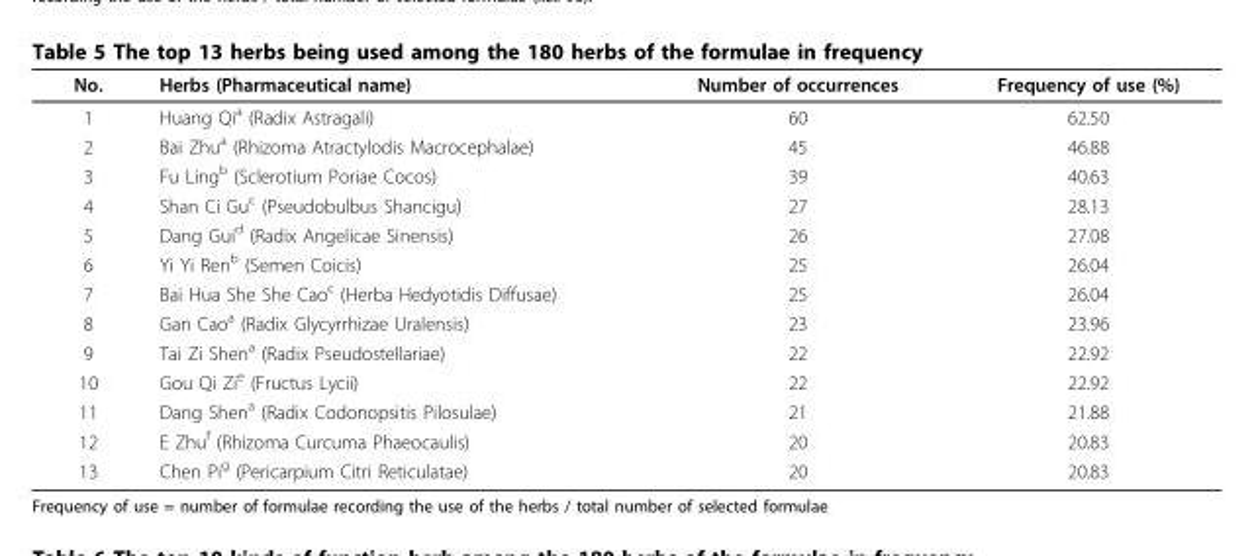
<table><thead><tr><td>No.</td><td>Herbs (Pharmaceutical name)</td><td>Number of occurrences</td><td>Frequency of use (%)</td></tr></thead><tbody><tr><td>1</td><td>Huang Qi<sup>a</sup> (Radix Astragali)</td><td>60</td><td>62.50</td></tr><tr><td>2</td><td>Bai Zhu<sup>a</sup> (Rhizoma Atractylodis Macrocephalae)</td><td>45</td><td>46.88</td></tr><tr><td>3</td><td>Fu Ling<sup>b</sup> (Sclerotium Poriae Cocos)</td><td>39</td><td>40.63</td></tr><tr><td>4</td><td>Shan Ci Gu<sup>c</sup> (Pseudobulbus Shancigu)</td><td>27</td><td>28.13</td></tr><tr><td>5</td><td>Dang Gui<sup>d</sup> (Radix Angelicae Sinensis)</td><td>26</td><td>27.08</td></tr><tr><td>6</td><td>Yi Yi Ren<sup>b</sup> (Semen Coicis)</td><td>25</td><td>26.04</td></tr><tr><td>7</td><td>Bai Hua She She Cao<sup>c</sup> (Herba Hedyotidis Diffusae)</td><td>25</td><td>26.04</td></tr><tr><td>8</td><td>Gan Cao<sup>a</sup> (Radix Glycyrrhizae Uralensis)</td><td>23</td><td>23.96</td></tr><tr><td>9</td><td>Tai Zi Shen<sup>a</sup> (Radix Pseudostellariae)</td><td>22</td><td>22.92</td></tr><tr><td>10</td><td>Gou Qi Zi<sup>e</sup> (Fructus Lycii)</td><td>22</td><td>22.92</td></tr><tr><td>11</td><td>Dang Shen<sup>a</sup> (Radix Codonopsitis Pilosulae)</td><td>21</td><td>21.88</td></tr><tr><td>12</td><td>E Zhu<sup>f</sup> (Rhizoma Curcuma Phaeocaulis)</td><td>20</td><td>20.83</td></tr><tr><td>13</td><td>Chen Pi<sup>g</sup> (Pericarpium Citri Reticulatae)</td><td>20</td><td>20.83</td></tr></tbody></table>